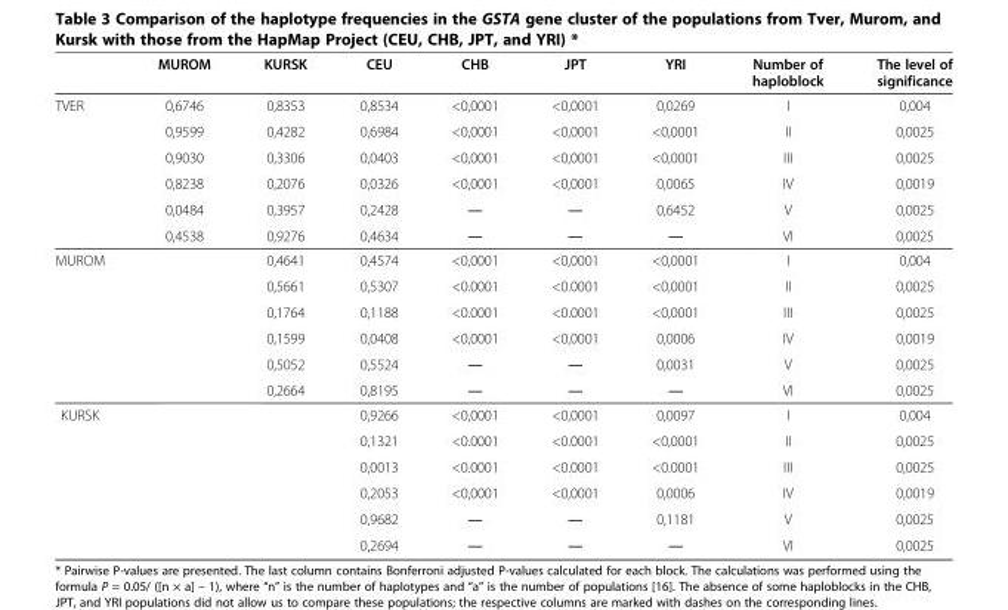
<table><thead><tr><td></td><td>MUROM</td><td>KURSK</td><td>СЕU</td><td>CHB</td><td>JPT</td><td>YRI</td><td>Number of haploblock</td><td>The level of significance</td></tr></thead><tbody><tr><td rowspan="6">TVER</td><td>0,6746</td><td>0,8353</td><td>0,8534</td><td>&lt;0,0001</td><td>&lt;0,0001</td><td>0,0269</td><td>I</td><td>0,004</td></tr><tr><td>0,9599</td><td>0,4282</td><td>0,6984</td><td>&lt;0,0001</td><td>&lt;0,0001</td><td>&lt;0,0001</td><td>II</td><td>0,0025</td></tr><tr><td>0,9030</td><td>0,3306</td><td>0,0403</td><td>&lt;0,0001</td><td>&lt;0,0001</td><td>&lt;0,0001</td><td>III</td><td>0,0025</td></tr><tr><td>0,8238</td><td>0,2076</td><td>0,0326</td><td>&lt;0,0001</td><td>&lt;0,0001</td><td>0,0065</td><td>IV</td><td>0,0019</td></tr><tr><td>0,0484</td><td>0,3957</td><td>0,2428</td><td>―</td><td>―</td><td>0,6452</td><td>V</td><td>0,0025</td></tr><tr><td>0,4538</td><td>0,9276</td><td>0,4634</td><td>―</td><td>―</td><td>―</td><td>VI</td><td>0,0025</td></tr><tr><td rowspan="6">MUROM</td><td></td><td>0,4641</td><td>0,4574</td><td>&lt;0,0001</td><td>&lt;0,0001</td><td>&lt;0,0001</td><td>I</td><td>0,004</td></tr><tr><td></td><td>0,5661</td><td>0,5307</td><td>&lt;0.0001</td><td>&lt;0.0001</td><td>&lt;0,0001</td><td>II</td><td>0,0025</td></tr><tr><td></td><td>0,1764</td><td>0,1188</td><td>&lt;0.0001</td><td>&lt;0.0001</td><td>&lt;0,0001</td><td>III</td><td>0,0025</td></tr><tr><td></td><td>0,1599</td><td>0,0408</td><td>&lt;0,0001</td><td>&lt;0,0001</td><td>0,0006</td><td>IV</td><td>0,0019</td></tr><tr><td></td><td>0,5052</td><td>0,5524</td><td>―</td><td>―</td><td>0,0031</td><td>V</td><td>0,0025</td></tr><tr><td></td><td>0,2664</td><td>0,8195</td><td>―</td><td>―</td><td>―</td><td>VI</td><td>0,0025</td></tr><tr><td rowspan="6">KURSK</td><td></td><td></td><td>0,9266</td><td>&lt;0,0001</td><td>&lt;0,0001</td><td>0,0097</td><td>I</td><td>0,004</td></tr><tr><td></td><td></td><td>0,1321</td><td>&lt;0.0001</td><td>&lt;0.0001</td><td>&lt;0,0001</td><td>II</td><td>0,0025</td></tr><tr><td></td><td></td><td>0,0013</td><td>&lt;0.0001</td><td>&lt;0.0001</td><td>&lt;0.0001</td><td>III</td><td>0,0025</td></tr><tr><td></td><td></td><td>0,2053</td><td>&lt;0,0001</td><td>&lt;0,0001</td><td>0,0006</td><td>IV</td><td>0,0019</td></tr><tr><td></td><td></td><td>0,9682</td><td>―</td><td>―</td><td>0,1181</td><td>V</td><td>0,0025</td></tr><tr><td></td><td></td><td>0,2694</td><td>―</td><td>―</td><td>―</td><td>VI</td><td>0,0025</td></tr></tbody></table>